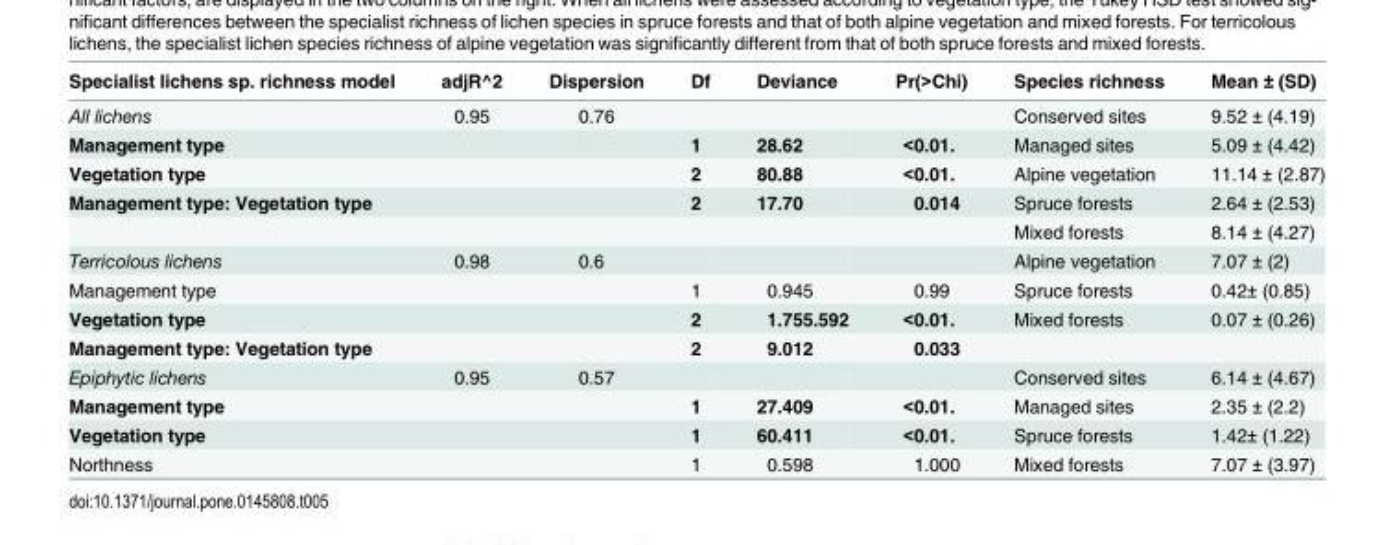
<table><thead><tr><td>Specialist lichens sp. richness model</td><td>adjR^2</td><td>Dispersion</td><td>Df</td><td>Deviance</td><td>Pr(&gt;Chi)</td><td>Species richness</td><td>Mean ± (SD)</td></tr></thead><tbody><tr><td>All lichens</td><td>0.95</td><td>0.76</td><td></td><td></td><td></td><td>Conserved sites</td><td>9.52 ± (4.19)</td></tr><tr><td>Management type</td><td></td><td></td><td>1</td><td>28.62</td><td>&lt;0.01.</td><td>Managed sites</td><td>5.09 ± (4.42)</td></tr><tr><td>Vegetation type</td><td></td><td></td><td>2</td><td>80.88</td><td>&lt;0.01.</td><td>Alpine vegetation</td><td>11.14 ± (2.87)</td></tr><tr><td rowspan="2">Management type: Vegetation type</td><td></td><td></td><td>2</td><td>17.70</td><td>0.014</td><td>Spruce forests</td><td>2.64 ± (2.53)</td></tr><tr><td></td><td></td><td></td><td></td><td></td><td>Mixed forests</td><td>8.14 ± (4.27)</td></tr><tr><td>Terricolous lichens</td><td>0.98</td><td>0.6</td><td></td><td></td><td></td><td>Alpine vegetation</td><td>7.07 ± (2)</td></tr><tr><td>Management type</td><td></td><td></td><td>1</td><td>0.945</td><td>0.99</td><td>Spruce forests</td><td>0.42± (0.85)</td></tr><tr><td>Vegetation type</td><td></td><td></td><td>2</td><td>1.755.592</td><td>&lt;0.01.</td><td>Mixed forests</td><td>0.07 ± (0.26)</td></tr><tr><td>Management type: Vegetation type</td><td></td><td></td><td>2</td><td>9.012</td><td>0.033</td><td></td><td></td></tr><tr><td>Epiphytic lichens</td><td>0.95</td><td>0.57</td><td></td><td></td><td></td><td>Conserved sites</td><td>6.14 ± (4.67)</td></tr><tr><td>Management type</td><td></td><td></td><td>1</td><td>27.409</td><td>&lt;0.01.</td><td>Managed sites</td><td>2.35 ± (2.2)</td></tr><tr><td>Vegetation type</td><td></td><td></td><td>1</td><td>60.411</td><td>&lt;0.01.</td><td>Spruce forests</td><td>1.42± (1.22)</td></tr><tr><td>Northness</td><td></td><td></td><td>1</td><td>0.598</td><td>1.000</td><td>Mixed forests</td><td>7.07 ± (3.97)</td></tr></tbody></table>